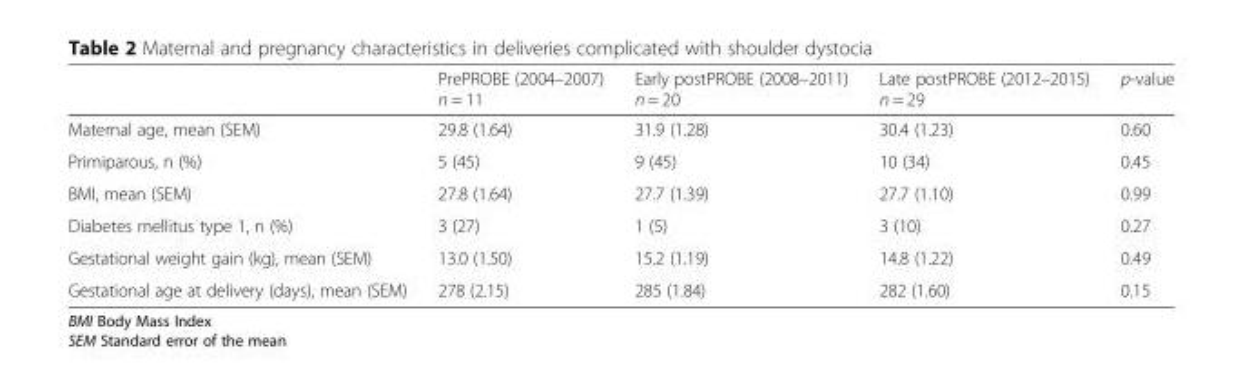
<table><thead><tr><td></td><td>PrePROBE (2004–2007) n = 11</td><td>Early postPROBE (2008–2011) n = 20</td><td>Late postPROBE (2012–2015) n = 29</td><td>p-value</td></tr></thead><tbody><tr><td>Maternal age, mean (SEM)</td><td>29.8 (1.64)</td><td>31.9 (1.28)</td><td>30.4 (1.23)</td><td>0.60</td></tr><tr><td>Primiparous, n (%)</td><td>5 (45)</td><td>9 (45)</td><td>10 (34)</td><td>0.45</td></tr><tr><td>BMI, mean (SEM)</td><td>27.8 (1.64)</td><td>27.7 (1.39)</td><td>27.7 (1.10)</td><td>0.99</td></tr><tr><td>Diabetes mellitus type 1, n (%)</td><td>3 (27)</td><td>1 (5)</td><td>3 (10)</td><td>0.27</td></tr><tr><td>Gestational weight gain (kg), mean (SEM)</td><td>13.0 (1.50)</td><td>15.2 (1.19)</td><td>14.8 (1.22)</td><td>0.49</td></tr><tr><td>Gestational age at delivery (days), mean (SEM)</td><td>278 (2.15)</td><td>285 (1.84)</td><td>282 (1.60)</td><td>0.15</td></tr></tbody></table>